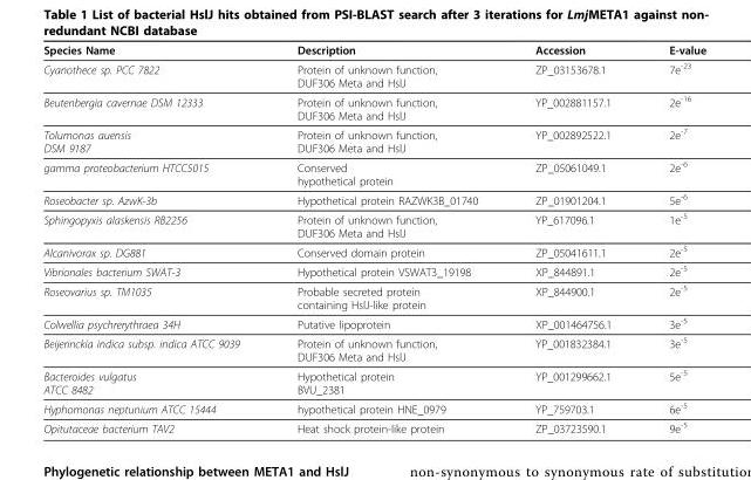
<table><thead><tr><td>Species Name</td><td>Description</td><td>Accession</td><td>E-value</td></tr></thead><tbody><tr><td>Cyanothece sp. PCC 7822</td><td>Protein of unknown function, DUF306 Meta and HslJ</td><td>ZP_03153678.1</td><td>7e<sup>-23</sup></td></tr><tr><td>Beutenbergia cavernae DSM 12333</td><td>Protein of unknown function, DUF306 Meta and HslJ</td><td>YP_002881157.1</td><td>2e<sup>-16</sup></td></tr><tr><td>Tolumonas auensis DSM 9187</td><td>Protein of unknown function, DUF306 Meta and HslJ</td><td>YP_002892522.1</td><td>2e<sup>-7</sup></td></tr><tr><td>gamma proteobacterium HTCC5015</td><td>Conserved hypothetical protein</td><td>ZP_05061049.1</td><td>2e<sup>-6</sup></td></tr><tr><td>Roseobacter sp. AzwK-3b</td><td>Hypothetical protein RAZWK3B_01740</td><td>ZP_01901204.1</td><td>5e<sup>-6</sup></td></tr><tr><td>Sphingopyxis alaskensis RB2256</td><td>Protein of unknown function, DUF306 Meta and HslJ</td><td>YP_617096.1</td><td>1e<sup>-5</sup></td></tr><tr><td>Alcanivorax sp. DG881</td><td>Conserved domain protein</td><td>ZP_05041611.1</td><td>2e<sup>-5</sup></td></tr><tr><td>Vibrionales bacterium SWAT-3</td><td>Hypothetical protein VSWAT3_19198</td><td>XP_844891.1</td><td>2e<sup>-5</sup></td></tr><tr><td>Roseovarius sp. TM1035</td><td>Probable secreted protein containing HslJ-like protein</td><td>XP_844900.1</td><td>2e<sup>-5</sup></td></tr><tr><td>Colwellia psychrerythraea 34H</td><td>Putative lipoprotein</td><td>XP_001464756.1</td><td>3e<sup>-5</sup></td></tr><tr><td>Beijerinckia indica subsp. indica ATCC 9039</td><td>Protein of unknown function, DUF306 Meta and HslJ</td><td>YP_001832384.1</td><td>3e<sup>-5</sup></td></tr><tr><td>Bacteroides vulgatus ATCC 8482</td><td>Hypothetical protein BVU_2381</td><td>YP_001299662.1</td><td>5e<sup>-5</sup></td></tr><tr><td>Hyphomonas neptunium ATCC 15444</td><td>hypothetical protein HNE_0979</td><td>YP_759703.1</td><td>6e<sup>-5</sup></td></tr><tr><td>Opitutaceae bacterium TAV2</td><td>Heat shock protein-like protein</td><td>ZP_03723590.1</td><td>9e<sup>-5</sup></td></tr></tbody></table>